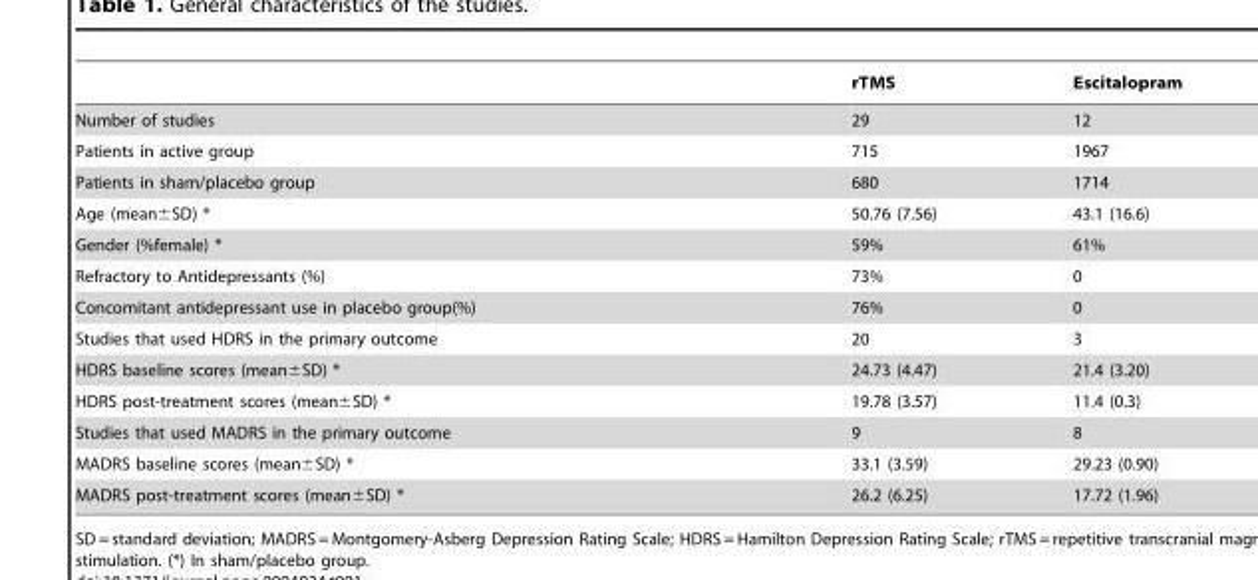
<table><thead><tr><td></td><td>rTMS</td><td>Escitalopram</td></tr></thead><tbody><tr><td>Number of studies</td><td>29</td><td>12</td></tr><tr><td>Patients in active group</td><td>715</td><td>1967</td></tr><tr><td>Patients in sham/placebo group</td><td>680</td><td>1714</td></tr><tr><td>Age (mean±SD) *</td><td>50.76 (7.56)</td><td>43.1 (16.6)</td></tr><tr><td>Gender (%female) *</td><td>59%</td><td>61%</td></tr><tr><td>Refractory to Antidepressants (%)</td><td>73%</td><td>0</td></tr><tr><td>Concomitant antidepressant use in placebo group(%)</td><td>76%</td><td>0</td></tr><tr><td>Studies that used HDRS in the primary outcome</td><td>20</td><td>3</td></tr><tr><td>HDRS baseline scores (mean±SD) *</td><td>24.73 (4.47)</td><td>21.4 (3.20)</td></tr><tr><td>HDRS post-treatment scores (mean±SD) *</td><td>19.78 (3.57)</td><td>11.4 (0.3)</td></tr><tr><td>Studies that used MADRS in the primary outcome</td><td>9</td><td>8</td></tr><tr><td>MADRS baseline scores (mean±SD) *</td><td>33.1 (3.59)</td><td>29.23 (0.90)</td></tr><tr><td>MADRS post-treatment scores (mean±SD) *</td><td>26.2 (6.25)</td><td>17.72 (1.96)</td></tr></tbody></table>